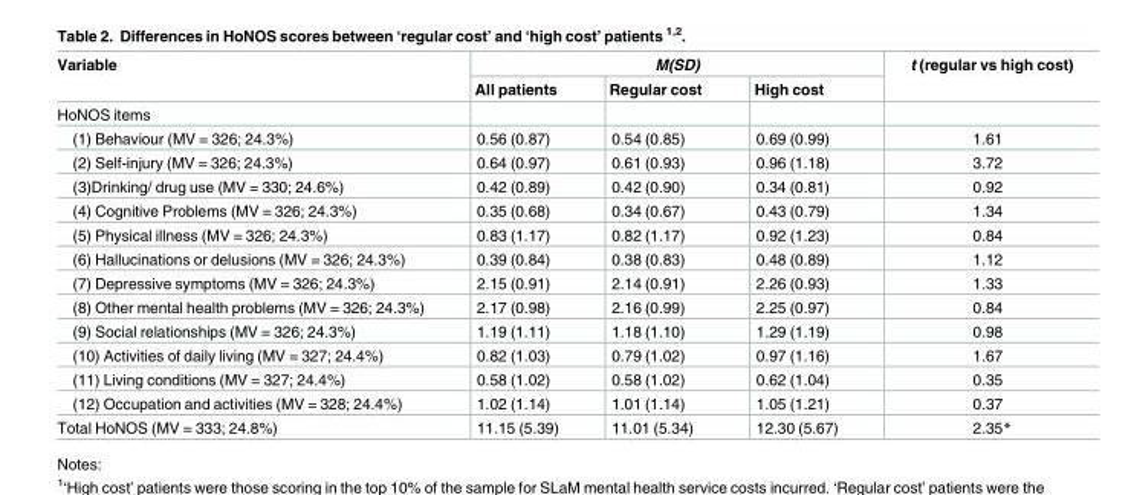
<table><thead><tr><td rowspan="2">Variable</td><td colspan="3">M(SD)</td><td rowspan="2">t (regular vs high cost)</td></tr><tr><td>All patients</td><td>Regular cost</td><td>High cost</td></tr></thead><tbody><tr><td colspan="5">HoNOS items</td></tr><tr><td>(1) Behaviour (MV = 326; 24.3%)</td><td>0.56 (0.87)</td><td>0.54 (0.85)</td><td>0.69 (0.99)</td><td>1.61</td></tr><tr><td>(2) Self-injury (MV = 326; 24.3%)</td><td>0.64 (0.97)</td><td>0.61 (0.93)</td><td>0.96 (1.18)</td><td>3.72</td></tr><tr><td>(3)Drinking/ drug use (MV = 330; 24.6%)</td><td>0.42 (0.89)</td><td>0.42 (0.90)</td><td>0.34 (0.81)</td><td>0.92</td></tr><tr><td>(4) Cognitive Problems (MV = 326; 24.3%)</td><td>0.35 (0.68)</td><td>0.34 (0.67)</td><td>0.43 (0.79)</td><td>1.34</td></tr><tr><td>(5) Physical illness (MV = 326; 24.3%)</td><td>0.83 (1.17)</td><td>0.82 (1.17)</td><td>0.92 (1.23)</td><td>0.84</td></tr><tr><td>(6) Hallucinations or delusions (MV = 326; 24.3%)</td><td>0.39 (0.84)</td><td>0.38 (0.83)</td><td>0.48 (0.89)</td><td>1.12</td></tr><tr><td>(7) Depressive symptoms (MV = 326; 24.3%)</td><td>2.15 (0.91)</td><td>2.14 (0.91)</td><td>2.26 (0.93)</td><td>1.33</td></tr><tr><td>(8) Other mental health problems (MV = 326; 24.3%)</td><td>2.17 (0.98)</td><td>2.16 (0.99)</td><td>2.25 (0.97)</td><td>0.84</td></tr><tr><td>(9) Social relationships (MV = 326; 24.3%)</td><td>1.19 (1.11)</td><td>1.18 (1.10)</td><td>1.29 (1.19)</td><td>0.98</td></tr><tr><td>(10) Activities of daily living (MV = 327; 24.4%)</td><td>0.82 (1.03)</td><td>0.79 (1.02)</td><td>0.97 (1.16)</td><td>1.67</td></tr><tr><td>(11) Living conditions (MV = 327; 24.4%)</td><td>0.58 (1.02)</td><td>0.58 (1.02)</td><td>0.62 (1.04)</td><td>0.35</td></tr><tr><td>(12) Occupation and activities (MV = 328; 24.4%)</td><td>1.02 (1.14)</td><td>1.01 (1.14)</td><td>1.05 (1.21)</td><td>0.37</td></tr><tr><td>Total HoNOS (MV = 333; 24.8%)</td><td>11.15 (5.39)</td><td>11.01 (5.34)</td><td>12.30 (5.67)</td><td>2.35*</td></tr></tbody></table>